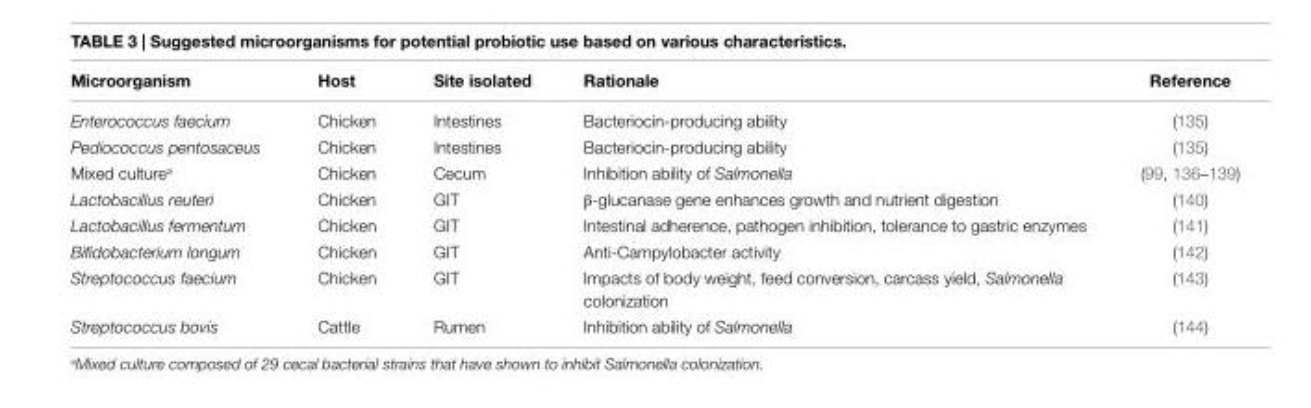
<table><thead><tr><td>Microorganism</td><td>Host</td><td>Site isolated</td><td>Rationale</td><td>Reference</td></tr></thead><tbody><tr><td>Enterococcus faecium</td><td>Chicken</td><td>Intestines</td><td>Bacteriocin-producing ability</td><td>(135)</td></tr><tr><td>Pediococcus pentosaceus</td><td>Chicken</td><td>Intestines</td><td>Bacteriocin-producing ability</td><td>(135)</td></tr><tr><td>Mixed culture<sup>a</sup></td><td>Chicken</td><td>Cecum</td><td>Inhibition ability of Salmonella</td><td>(99, 136–139)</td></tr><tr><td>Lactobacillus reuteri</td><td>Chicken</td><td>GIT</td><td>β-glucanase gene enhances growth and nutrient digestion</td><td>(140)</td></tr><tr><td>Lactobacillus fermentum</td><td>Chicken</td><td>GIT</td><td>Intestinal adherence, pathogen inhibition, tolerance to gastric enzymes</td><td>(141)</td></tr><tr><td>Bifidobacterium longum</td><td>Chicken</td><td>GIT</td><td>Anti-Campylobacter activity</td><td>(142)</td></tr><tr><td>Streptococcus faecium</td><td>Chicken</td><td>GIT</td><td>Impacts of body weight, feed conversion, carcass yield, Salmonella colonization</td><td>(143)</td></tr><tr><td>Streptococcus bovis</td><td>Cattle</td><td>Rumen</td><td>Inhibition ability of Salmonella</td><td>(144)</td></tr></tbody></table>